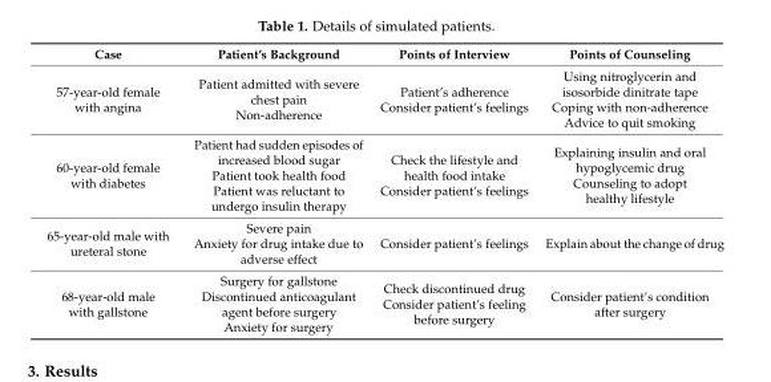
<table><thead><tr><td>Case</td><td>Patient’s Background</td><td>Points of Interview</td><td>Points of Counseling</td></tr></thead><tbody><tr><td>57-year-old female with angina</td><td>Patient admitted with severe chest pain Non-adherence</td><td>Patient’s adherence Consider patient’s feelings</td><td>Using nitroglycerin and isosorbide dinitrate tape Coping with non-adherence Advice to quit smoking</td></tr><tr><td>60-year-old female with diabetes</td><td>Patient had sudden episodes of increased blood sugar Patient took health food Patient was reluctant to undergo insulin therapy</td><td>Check the lifestyle and health food intake Consider patient’s feelings</td><td>Explaining insulin and oral hypoglycemic drug Counseling to adopt healthy lifestyle</td></tr><tr><td>65-year-old male with ureteral stone</td><td>Severe pain Anxiety for drug intake due to adverse effect</td><td>Consider patient’s feelings</td><td>Explain about the change of drug</td></tr><tr><td>68-year-old male with gallstone</td><td>Surgery for gallstone Discontinued anticoagulant agent before surgery Anxiety for surgery</td><td>Check discontinued drug Consider patient’s feeling before surgery</td><td>Consider patient’s condition after surgery</td></tr></tbody></table>